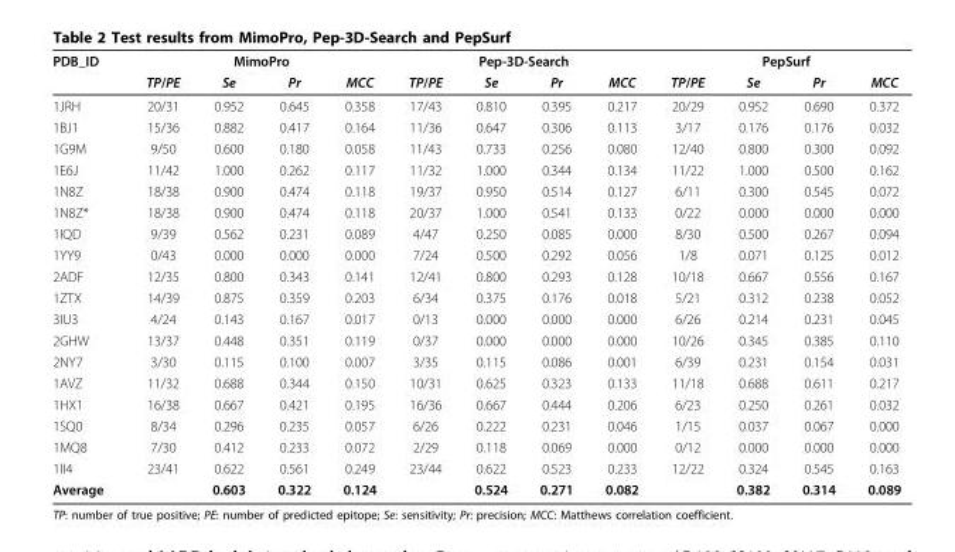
<table><thead><tr><td rowspan="2">PDB_ID</td><td colspan="4">MimoPro</td><td colspan="4">Pep-3D-Search</td><td colspan="4">PepSurf</td></tr><tr><td>TP/PE</td><td>Se</td><td>Pr</td><td>MCC</td><td>TP/PE</td><td>Se</td><td>Pr</td><td>MCC</td><td>TP/PE</td><td>Se</td><td>Pr</td><td>MCC</td></tr></thead><tbody><tr><td>1JRH</td><td>20/31</td><td>0.952</td><td>0.645</td><td>0.358</td><td>17/43</td><td>0.810</td><td>0.395</td><td>0.217</td><td>20/29</td><td>0.952</td><td>0.690</td><td>0.372</td></tr><tr><td>1BJ1</td><td>15/36</td><td>0.882</td><td>0.417</td><td>0.164</td><td>11/36</td><td>0.647</td><td>0.306</td><td>0.113</td><td>3/17</td><td>0.176</td><td>0.176</td><td>0.032</td></tr><tr><td>1G9M</td><td>9/50</td><td>0.600</td><td>0.180</td><td>0.058</td><td>11/43</td><td>0.733</td><td>0.256</td><td>0.080</td><td>12/40</td><td>0.800</td><td>0.300</td><td>0.092</td></tr><tr><td>1E6J</td><td>11/42</td><td>1.000</td><td>0.262</td><td>0.117</td><td>11/32</td><td>1.000</td><td>0.344</td><td>0.134</td><td>11/22</td><td>1.000</td><td>0.500</td><td>0.162</td></tr><tr><td>1N8Z</td><td>18/38</td><td>0.900</td><td>0.474</td><td>0.118</td><td>19/37</td><td>0.950</td><td>0.514</td><td>0.127</td><td>6/11</td><td>0.300</td><td>0.545</td><td>0.072</td></tr><tr><td>1N8Z*</td><td>18/38</td><td>0.900</td><td>0.474</td><td>0.118</td><td>20/37</td><td>1.000</td><td>0.541</td><td>0.133</td><td>0/22</td><td>0.000</td><td>0.000</td><td>0.000</td></tr><tr><td>1IQD</td><td>9/39</td><td>0.562</td><td>0.231</td><td>0.089</td><td>4/47</td><td>0.250</td><td>0.085</td><td>0.000</td><td>8/30</td><td>0.500</td><td>0.267</td><td>0.094</td></tr><tr><td>1YY9</td><td>0/43</td><td>0.000</td><td>0.000</td><td>0.000</td><td>7/24</td><td>0.500</td><td>0.292</td><td>0.056</td><td>1/8</td><td>0.071</td><td>0.125</td><td>0.012</td></tr><tr><td>2ADF</td><td>12/35</td><td>0.800</td><td>0.343</td><td>0.141</td><td>12/41</td><td>0.800</td><td>0.293</td><td>0.128</td><td>10/18</td><td>0.667</td><td>0.556</td><td>0.167</td></tr><tr><td>1ZTX</td><td>14/39</td><td>0.875</td><td>0.359</td><td>0.203</td><td>6/34</td><td>0.375</td><td>0.176</td><td>0.018</td><td>5/21</td><td>0.312</td><td>0.238</td><td>0.052</td></tr><tr><td>3IU3</td><td>4/24</td><td>0.143</td><td>0.167</td><td>0.017</td><td>0/13</td><td>0.000</td><td>0.000</td><td>0.000</td><td>6/26</td><td>0.214</td><td>0.231</td><td>0.045</td></tr><tr><td>2GHW</td><td>13/37</td><td>0.448</td><td>0.351</td><td>0.119</td><td>0/37</td><td>0.000</td><td>0.000</td><td>0.000</td><td>10/26</td><td>0.345</td><td>0.385</td><td>0.110</td></tr><tr><td>2NY7</td><td>3/30</td><td>0.115</td><td>0.100</td><td>0.007</td><td>3/35</td><td>0.115</td><td>0.086</td><td>0.001</td><td>6/39</td><td>0.231</td><td>0.154</td><td>0.031</td></tr><tr><td>1AVZ</td><td>11/32</td><td>0.688</td><td>0.344</td><td>0.150</td><td>10/31</td><td>0.625</td><td>0.323</td><td>0.133</td><td>11/18</td><td>0.688</td><td>0.611</td><td>0.217</td></tr><tr><td>1HX1</td><td>16/38</td><td>0.667</td><td>0.421</td><td>0.195</td><td>16/36</td><td>0.667</td><td>0.444</td><td>0.206</td><td>6/23</td><td>0.250</td><td>0.261</td><td>0.032</td></tr><tr><td>1SQ0</td><td>8/34</td><td>0.296</td><td>0.235</td><td>0.057</td><td>6/26</td><td>0.222</td><td>0.231</td><td>0.046</td><td>1/15</td><td>0.037</td><td>0.067</td><td>0.000</td></tr><tr><td>1MQ8</td><td>7/30</td><td>0.412</td><td>0.233</td><td>0.072</td><td>2/29</td><td>0.118</td><td>0.069</td><td>0.000</td><td>0/12</td><td>0.000</td><td>0.000</td><td>0.000</td></tr><tr><td>1II4</td><td>23/41</td><td>0.622</td><td>0.561</td><td>0.249</td><td>23/44</td><td>0.622</td><td>0.523</td><td>0.233</td><td>12/22</td><td>0.324</td><td>0.545</td><td>0.163</td></tr><tr><td>Average</td><td></td><td>0.603</td><td>0.322</td><td>0.124</td><td></td><td>0.524</td><td>0.271</td><td>0.082</td><td></td><td>0.382</td><td>0.314</td><td>0.089</td></tr></tbody></table>